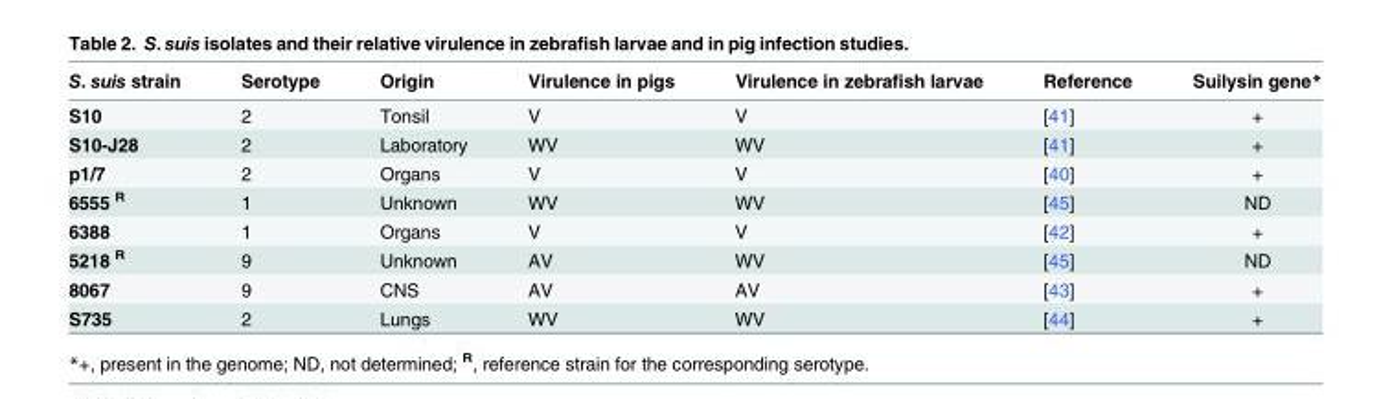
<table><thead><tr><td>S. suis strain</td><td>Serotype</td><td>Origin</td><td>Virulence in pigs</td><td>Virulence in zebrafish larvae</td><td>Reference</td><td>Suilysin gene*</td></tr></thead><tbody><tr><td>S10</td><td>2</td><td>Tonsil</td><td>V</td><td>V</td><td>[41]</td><td>+</td></tr><tr><td>S10-J28</td><td>2</td><td>Laboratory</td><td>WV</td><td>WV</td><td>[41]</td><td>+</td></tr><tr><td>p1/7</td><td>2</td><td>Organs</td><td>V</td><td>V</td><td>[40]</td><td>+</td></tr><tr><td>6555 <sup>R</sup></td><td>1</td><td>Unknown</td><td>WV</td><td>WV</td><td>[45]</td><td>ND</td></tr><tr><td>6388</td><td>1</td><td>Organs</td><td>V</td><td>V</td><td>[42]</td><td>+</td></tr><tr><td>5218 <sup>R</sup></td><td>9</td><td>Unknown</td><td>AV</td><td>WV</td><td>[45]</td><td>ND</td></tr><tr><td>8067</td><td>9</td><td>CNS</td><td>AV</td><td>AV</td><td>[43]</td><td>+</td></tr><tr><td>S735</td><td>2</td><td>Lungs</td><td>WV</td><td>WV</td><td>[44]</td><td>+</td></tr></tbody></table>